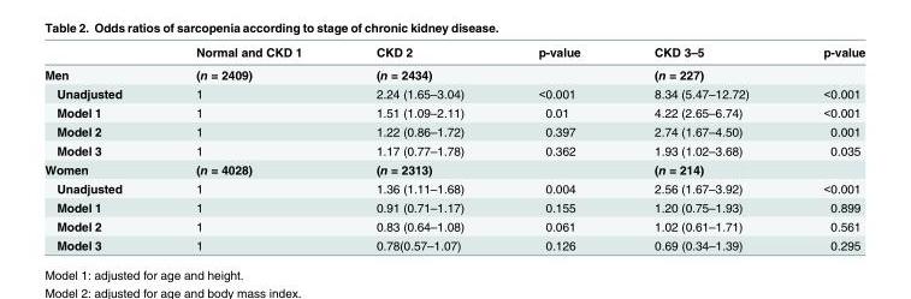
<table><thead><tr><td></td><td>Normal and CKD 1</td><td>CKD 2</td><td>p-value</td><td>CKD 3–5</td><td>p-value</td></tr></thead><tbody><tr><td>Men</td><td>(n = 2409)</td><td>(n = 2434)</td><td></td><td>(n = 227)</td><td></td></tr><tr><td>Unadjusted</td><td>1</td><td>2.24 (1.65–3.04)</td><td>&lt;0.001</td><td>8.34 (5.47–12.72)</td><td>&lt;0.001</td></tr><tr><td>Model 1</td><td>1</td><td>1.51 (1.09–2.11)</td><td>0.01</td><td>4.22 (2.65–6.74)</td><td>&lt;0.001</td></tr><tr><td>Model 2</td><td>1</td><td>1.22 (0.86–1.72)</td><td>0.397</td><td>2.74 (1.67–4.50)</td><td>0.001</td></tr><tr><td>Model 3</td><td>1</td><td>1.17 (0.77–1.78)</td><td>0.362</td><td>1.93 (1.02–3.68)</td><td>0.035</td></tr><tr><td>Women</td><td>(n = 4028)</td><td>(n = 2313)</td><td></td><td>(n = 214)</td><td></td></tr><tr><td>Unadjusted</td><td>1</td><td>1.36 (1.11–1.68)</td><td>0.004</td><td>2.56 (1.67–3.92)</td><td>&lt;0.001</td></tr><tr><td>Model 1</td><td>1</td><td>0.91 (0.71–1.17)</td><td>0.155</td><td>1.20 (0.75–1.93)</td><td>0.899</td></tr><tr><td>Model 2</td><td>1</td><td>0.83 (0.64–1.08)</td><td>0.061</td><td>1.02 (0.61–1.71)</td><td>0.561</td></tr><tr><td>Model 3</td><td>1</td><td>0.78(0.57–1.07)</td><td>0.126</td><td>0.69 (0.34–1.39)</td><td>0.295</td></tr></tbody></table>